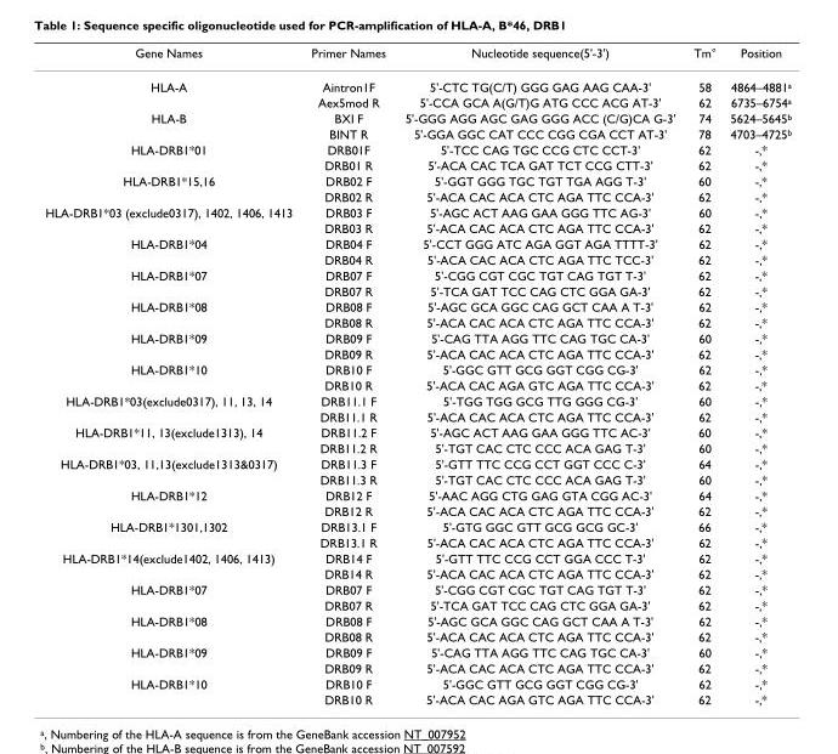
<table><thead><tr><td>Gene Names</td><td>Primer Names</td><td>Nucleotide sequence(5&#x27;-3&#x27;)</td><td>Tm°</td><td>Position</td></tr></thead><tbody><tr><td rowspan="2">HLA-A</td><td>Aintron1F</td><td>5&#x27;-CTC TG(C/T) GGG GAG AAG CAA-3&#x27;</td><td>58</td><td>4864–4881<sup>a</sup></td></tr><tr><td>Aex5mod R</td><td>5&#x27;-CCA GCA A(G/T)G ATG CCC ACG AT-3&#x27;</td><td>62</td><td>6735–6754<sup>a</sup></td></tr><tr><td rowspan="2">HLA-B</td><td>BXI F</td><td>5&#x27;-GGG AGG AGC GAG GGG ACC (C/G)CA G-3&#x27;</td><td>74</td><td>5624–5645<sup>b</sup></td></tr><tr><td>BINT R</td><td>5&#x27;-GGA GGC CAT CCC CGG CGA CCT AT-3&#x27;</td><td>78</td><td>4703–4725<sup>b</sup></td></tr><tr><td rowspan="2">HLA-DRB1*01</td><td>DRB01F</td><td>5&#x27;-TCC CAG TGC CCG CTC CCT-3&#x27;</td><td>62</td><td>-,*</td></tr><tr><td>DRB01 R</td><td>5&#x27;-ACA CAC TCA GAT TCT CCG CTT-3&#x27;</td><td>62</td><td>-,*</td></tr><tr><td rowspan="2">HLA-DRB1*15,16</td><td>DRB02 F</td><td>5&#x27;-GGT GGG TGC TGT TGA AGG T-3&#x27;</td><td>60</td><td>-,*</td></tr><tr><td>DRB02 R</td><td>5&#x27;-ACA CAC ACA CTC AGA TTC CCA-3&#x27;</td><td>62</td><td>-,*</td></tr><tr><td rowspan="2">HLA-DRB1*03 (exclude0317), 1402, 1406, 1413</td><td>DRB03 F</td><td>5&#x27;-AGC ACT AAG GAA GGG TTC AG-3&#x27;</td><td>60</td><td>-,*</td></tr><tr><td>DRB03 R</td><td>5&#x27;-ACA CAC ACA CTC AGA TTC CCA-3&#x27;</td><td>62</td><td>-,*</td></tr><tr><td rowspan="2">HLA-DRB1*04</td><td>DRB04 F</td><td>5&#x27;-CCT GGG ATC AGA GGT AGA TTTT-3&#x27;</td><td>62</td><td>-,*</td></tr><tr><td>DRB04 R</td><td>5&#x27;-ACA CAC ACA CTC AGA TTC TCC-3&#x27;</td><td>62</td><td>-,*</td></tr><tr><td rowspan="2">HLA-DRB1*07</td><td>DRB07 F</td><td>5&#x27;-CGG CGT CGC TGT CAG TGT T-3&#x27;</td><td>62</td><td>-,*</td></tr><tr><td>DRB07 R</td><td>5&#x27;-TCA GAT TCC CAG CTC GGA GA-3&#x27;</td><td>62</td><td>-,*</td></tr><tr><td rowspan="2">HLA-DRB1*08</td><td>DRB08 F</td><td>5&#x27;-AGC GCA GGC CAG GCT CAA A T-3&#x27;</td><td>62</td><td>-,*</td></tr><tr><td>DRB08 R</td><td>5&#x27;-ACA CAC ACA CTC AGA TTC CCA-3&#x27;</td><td>62</td><td>-,*</td></tr><tr><td rowspan="2">HLA-DRB1*09</td><td>DRB09 F</td><td>5&#x27;-CAG TTA AGG TTC CAG TGC CA-3&#x27;</td><td>60</td><td>-,*</td></tr><tr><td>DRB09 R</td><td>5&#x27;-ACA CAC ACA CTC AGA TTC CCA-3&#x27;</td><td>62</td><td>-,*</td></tr><tr><td rowspan="2">HLA-DRB1*10</td><td>DRB10 F</td><td>5&#x27;-GGC GTT GCG GGT CGG CG-3&#x27;</td><td>62</td><td>-,*</td></tr><tr><td>DRB10 R</td><td>5&#x27;-ACA CAC AGA GTC AGA TTC CCA-3&#x27;</td><td>62</td><td>-,*</td></tr><tr><td rowspan="2">HLA-DRB1*03(exclude0317), 11, 13, 14</td><td>DRB11.1 F</td><td>5&#x27;-TGG TGG GCG TTG GGG CG-3&#x27;</td><td>60</td><td>-,*</td></tr><tr><td>DRB11.1 R</td><td>5&#x27;-ACA CAC ACA CTC AGA TTC CCA-3&#x27;</td><td>62</td><td>-,*</td></tr><tr><td rowspan="2">HLA-DRB1*11, 13(exclude1313), 14</td><td>DRB11.2 F</td><td>5&#x27;-AGC ACT AAG GAA GGG TTC AC-3&#x27;</td><td>60</td><td>-,*</td></tr><tr><td>DRB11.2 R</td><td>5&#x27;-TGT CAC CTC CCC ACA GAG T-3&#x27;</td><td>60</td><td>-,*</td></tr><tr><td rowspan="2">HLA-DRB1*03, 11,13(exclude1313&amp;0317)</td><td>DRB11.3 F</td><td>5&#x27;-GTT TTC CCG CCT GGT CCC C-3&#x27;</td><td>64</td><td>-,*</td></tr><tr><td>DRB11.3 R</td><td>5&#x27;-TGT CAC CTC CCC ACA GAG T-3&#x27;</td><td>60</td><td>-,*</td></tr><tr><td rowspan="2">HLA-DRB1*12</td><td>DRB12 F</td><td>5&#x27;-AAC AGG CTG GAG GTA CGG AC-3&#x27;</td><td>64</td><td>-,*</td></tr><tr><td>DRB12 R</td><td>5&#x27;-ACA CAC ACA CTC AGA TTC CCA-3&#x27;</td><td>62</td><td>-,*</td></tr><tr><td rowspan="2">HLA-DRB1*1301,1302</td><td>DRB13.1 F</td><td>5&#x27;-GTG GGC GTT GCG GCG GC-3&#x27;</td><td>66</td><td>-,*</td></tr><tr><td>DRB13.1 R</td><td>5&#x27;-ACA CAC ACA CTC AGA TTC CCA-3&#x27;</td><td>62</td><td>-,*</td></tr><tr><td rowspan="2">HLA-DRB1*14(exclude1402, 1406, 1413)</td><td>DRB14 F</td><td>5&#x27;-GTT TTC CCG CCT GGA CCC T-3&#x27;</td><td>62</td><td>-,*</td></tr><tr><td>DRB14 R</td><td>5&#x27;-ACA CAC ACA CTC AGA TTC CCA-3&#x27;</td><td>62</td><td>-,*</td></tr><tr><td rowspan="2">HLA-DRB1*07</td><td>DRB07 F</td><td>5&#x27;-CGG CGT CGC TGT CAG TGT T-3&#x27;</td><td>62</td><td>-,*</td></tr><tr><td>DRB07 R</td><td>5&#x27;-TCA GAT TCC CAG CTC GGA GA-3&#x27;</td><td>62</td><td>-,*</td></tr><tr><td rowspan="2">HLA-DRB1*08</td><td>DRB08 F</td><td>5&#x27;-AGC GCA GGC CAG GCT CAA A T-3&#x27;</td><td>62</td><td>-,*</td></tr><tr><td>DRB08 R</td><td>5&#x27;-ACA CAC ACA CTC AGA TTC CCA-3&#x27;</td><td>62</td><td>-,*</td></tr><tr><td rowspan="2">HLA-DRB1*09</td><td>DRB09 F</td><td>5&#x27;-CAG TTA AGG TTC CAG TGC CA-3&#x27;</td><td>60</td><td>-,*</td></tr><tr><td>DRB09 R</td><td>5&#x27;-ACA CAC ACA CTC AGA TTC CCA-3&#x27;</td><td>62</td><td>-,*</td></tr><tr><td rowspan="2">HLA-DRB1*10</td><td>DRB10 F</td><td>5&#x27;-GGC GTT GCG GGT CGG CG-3&#x27;</td><td>62</td><td>-,*</td></tr><tr><td>DRB10 R</td><td>5&#x27;-ACA CAC AGA GTC AGA TTC CCA-3&#x27;</td><td>62</td><td>-,*</td></tr></tbody></table>